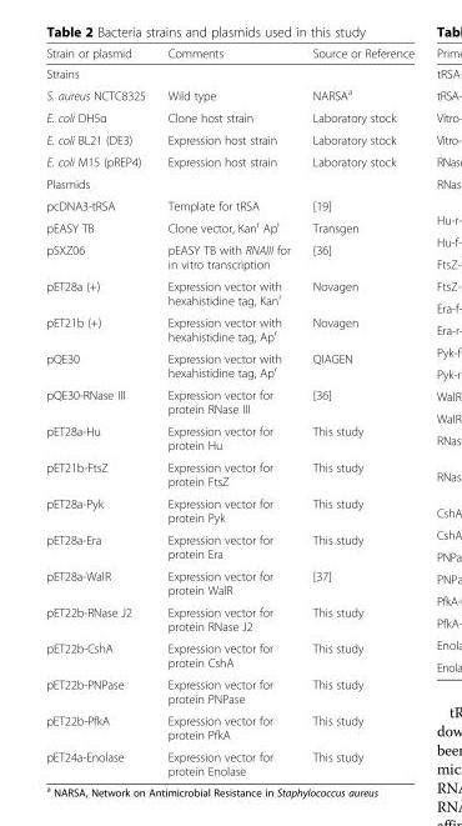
<table><thead><tr><td>Strain or plasmid</td><td>Comments</td><td>Source or Reference</td></tr></thead><tbody><tr><td colspan="3">Strains</td></tr><tr><td>S. aureus NCTC8325</td><td>Wild type</td><td>NARSA<sup>a</sup></td></tr><tr><td>E. coli DH5α</td><td>Clone host strain</td><td>Laboratory stock</td></tr><tr><td>E. coli BL21 (DE3)</td><td>Expression host strain</td><td>Laboratory stock</td></tr><tr><td>E. coli M15 (pREP4)</td><td>Expression host strain</td><td>Laboratory stock</td></tr><tr><td colspan="3">Plasmids</td></tr><tr><td>pcDNA3-tRSA</td><td>Template for tRSA</td><td>[19]</td></tr><tr><td>pEASY TB</td><td>Clone vector, Kan<sup>r</sup> Ap<sup>r</sup></td><td>Transgen</td></tr><tr><td>pSXZ06</td><td>pEASY TB with RNAIII for in vitro transcription</td><td>[36]</td></tr><tr><td>pET28a (+)</td><td>Expression vector with hexahistidine tag, Kan<sup>r</sup></td><td>Novagen</td></tr><tr><td>pET21b (+)</td><td>Expression vector with hexahistidine tag, Ap<sup>r</sup></td><td>Novagen</td></tr><tr><td>pQE30</td><td>Expression vector with hexahistidine tag, Ap<sup>r</sup></td><td>QIAGEN</td></tr><tr><td>pQE30-RNase III</td><td>Expression vector for protein RNase III</td><td>[36]</td></tr><tr><td>pET28a-Hu</td><td>Expression vector for protein Hu</td><td>This study</td></tr><tr><td>pET21b-FtsZ</td><td>Expression vector for protein FtsZ</td><td>This study</td></tr><tr><td>pET28a-Pyk</td><td>Expression vector for protein Pyk</td><td>This study</td></tr><tr><td>pET28a-Era</td><td>Expression vector for protein Era</td><td>This study</td></tr><tr><td>pET28a-WalR</td><td>Expression vector for protein WalR</td><td>[37]</td></tr><tr><td>pET22b-RNase J2</td><td>Expression vector for protein RNase J2</td><td>This study</td></tr><tr><td>pET22b-CshA</td><td>Expression vector for protein CshA</td><td>This study</td></tr><tr><td>pET22b-PNPase</td><td>Expression vector for protein PNPase</td><td>This study</td></tr><tr><td>pET22b-PfkA</td><td>Expression vector for protein PfkA</td><td>This study</td></tr><tr><td>pET24a-Enolase</td><td>Expression vector for protein Enolase</td><td>This study</td></tr></tbody></table>